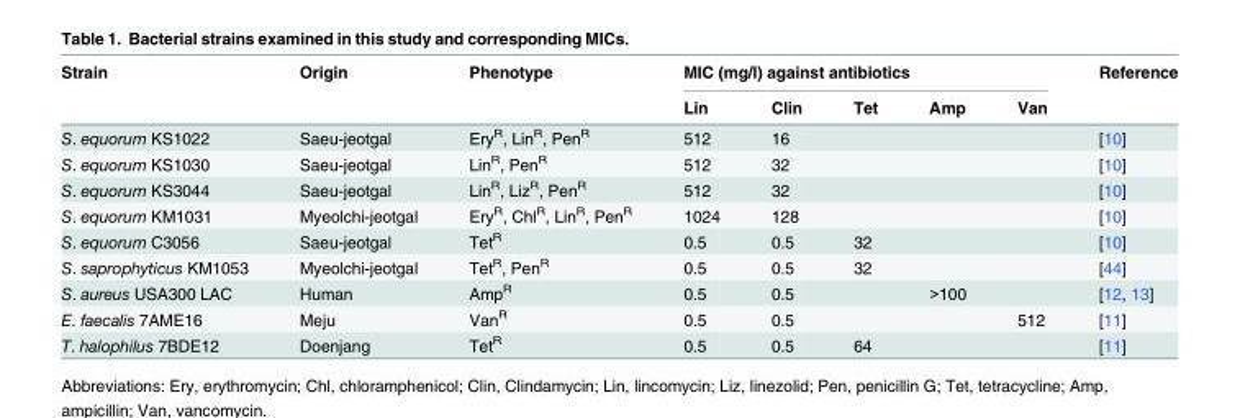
<table><thead><tr><td rowspan="2">Strain</td><td rowspan="2">Origin</td><td rowspan="2">Phenotype</td><td colspan="5">MIC (mg/l) against antibiotics</td><td rowspan="2">Reference</td></tr><tr><td>Lin</td><td>Clin</td><td>Tet</td><td>Amp</td><td>Van</td></tr></thead><tbody><tr><td>S. equorum KS1022</td><td>Saeu-jeotgal</td><td>Ery<sup>R</sup>, Lin<sup>R</sup>, Pen<sup>R</sup></td><td>512</td><td>16</td><td></td><td></td><td></td><td>[10]</td></tr><tr><td>S. equorum KS1030</td><td>Saeu-jeotgal</td><td>Lin<sup>R</sup>, Pen<sup>R</sup></td><td>512</td><td>32</td><td></td><td></td><td></td><td>[10]</td></tr><tr><td>S. equorum KS3044</td><td>Saeu-jeotgal</td><td>Lin<sup>R</sup>, Liz<sup>R</sup>, Pen<sup>R</sup></td><td>512</td><td>32</td><td></td><td></td><td></td><td>[10]</td></tr><tr><td>S. equorum KM1031</td><td>Myeolchi-jeotgal</td><td>Ery<sup>R</sup>, Chl<sup>R</sup>, Lin<sup>R</sup>, Pen<sup>R</sup></td><td>1024</td><td>128</td><td></td><td></td><td></td><td>[10]</td></tr><tr><td>S. equorum C3056</td><td>Saeu-jeotgal</td><td>Tet<sup>R</sup></td><td>0.5</td><td>0.5</td><td>32</td><td></td><td></td><td>[10]</td></tr><tr><td>S. saprophyticus KM1053</td><td>Myeolchi-jeotgal</td><td>Tet<sup>R</sup>, Pen<sup>R</sup></td><td>0.5</td><td>0.5</td><td>32</td><td></td><td></td><td>[44]</td></tr><tr><td>S. aureus USA300 LAC</td><td>Human</td><td>Amp<sup>R</sup></td><td>0.5</td><td>0.5</td><td></td><td>&gt;100</td><td></td><td>[12, 13]</td></tr><tr><td>E. faecalis 7AME16</td><td>Meju</td><td>Van<sup>R</sup></td><td>0.5</td><td>0.5</td><td></td><td></td><td>512</td><td>[11]</td></tr><tr><td>T. halophilus 7BDE12</td><td>Doenjang</td><td>Tet<sup>R</sup></td><td>0.5</td><td>0.5</td><td>64</td><td></td><td></td><td>[11]</td></tr></tbody></table>